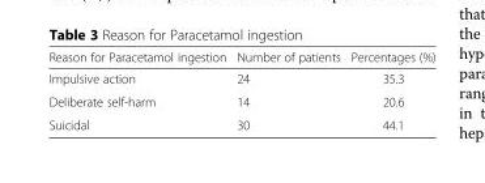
<table><thead><tr><td>Reason for Paracetamol ingestion</td><td>Number of patients</td><td>Percentages (%)</td></tr></thead><tbody><tr><td>Impulsive action</td><td>24</td><td>35.3</td></tr><tr><td>Deliberate self-harm</td><td>14</td><td>20.6</td></tr><tr><td>Suicidal</td><td>30</td><td>44.1</td></tr></tbody></table>